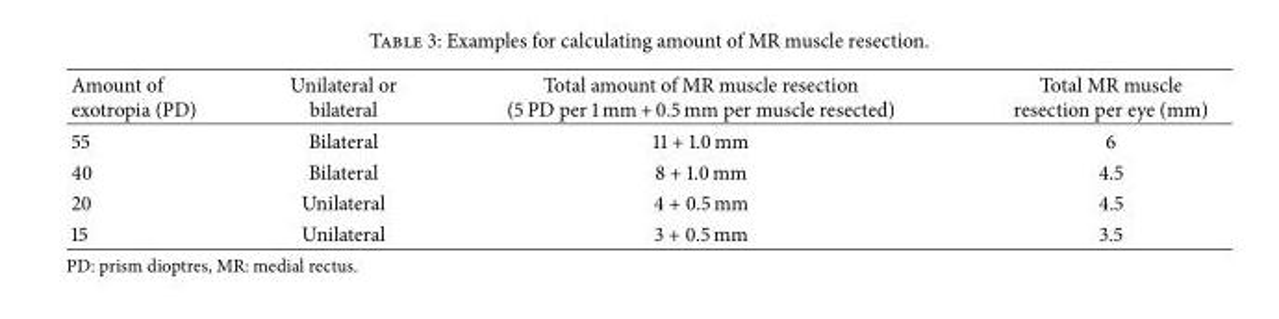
<table><thead><tr><td>Amount of exotropia (PD)</td><td>Unilateral or bilateral</td><td>Total amount of MR muscle resection (5 PD per 1 mm + 0.5 mm per muscle resected)</td><td>Total MR muscle resection per eye (mm)</td></tr></thead><tbody><tr><td>55</td><td>Bilateral</td><td>11 + 1.0 mm</td><td>6</td></tr><tr><td>40</td><td>Bilateral</td><td>8 + 1.0 mm</td><td>4.5</td></tr><tr><td>20</td><td>Unilateral</td><td>4 + 0.5 mm</td><td>4.5</td></tr><tr><td>15</td><td>Unilateral</td><td>3 + 0.5 mm</td><td>3.5</td></tr></tbody></table>